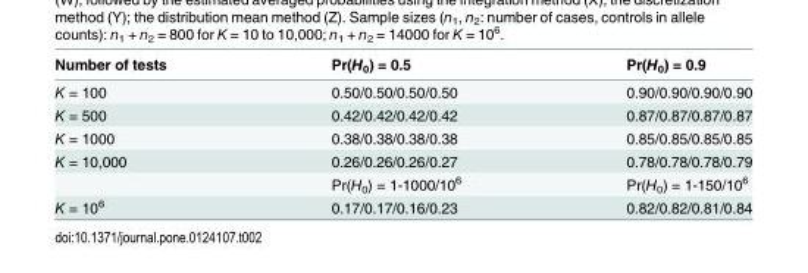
<table><thead><tr><td>Number of tests</td><td>Pr(H<sub>0</sub>) = 0.5</td><td>Pr(H<sub>0</sub>) = 0.9</td></tr></thead><tbody><tr><td>K = 100</td><td>0.50/0.50/0.50/0.50</td><td>0.90/0.90/0.90/0.90</td></tr><tr><td>K = 500</td><td>0.42/0.42/0.42/0.42</td><td>0.87/0.87/0.87/0.87</td></tr><tr><td>K = 1000</td><td>0.38/0.38/0.38/0.38</td><td>0.85/0.85/0.85/0.85</td></tr><tr><td rowspan="2">K = 10,000</td><td>0.26/0.26/0.26/0.27</td><td>0.78/0.78/0.78/0.79</td></tr><tr><td>Pr(H<sub>0</sub>) = 1-1000/10<sup>6</sup></td><td>Pr(H<sub>0</sub>) = 1-150/10<sup>6</sup></td></tr><tr><td>K = 10<sup>6</sup></td><td>0.17/0.17/0.16/0.23</td><td>0.82/0.82/0.81/0.84</td></tr></tbody></table>